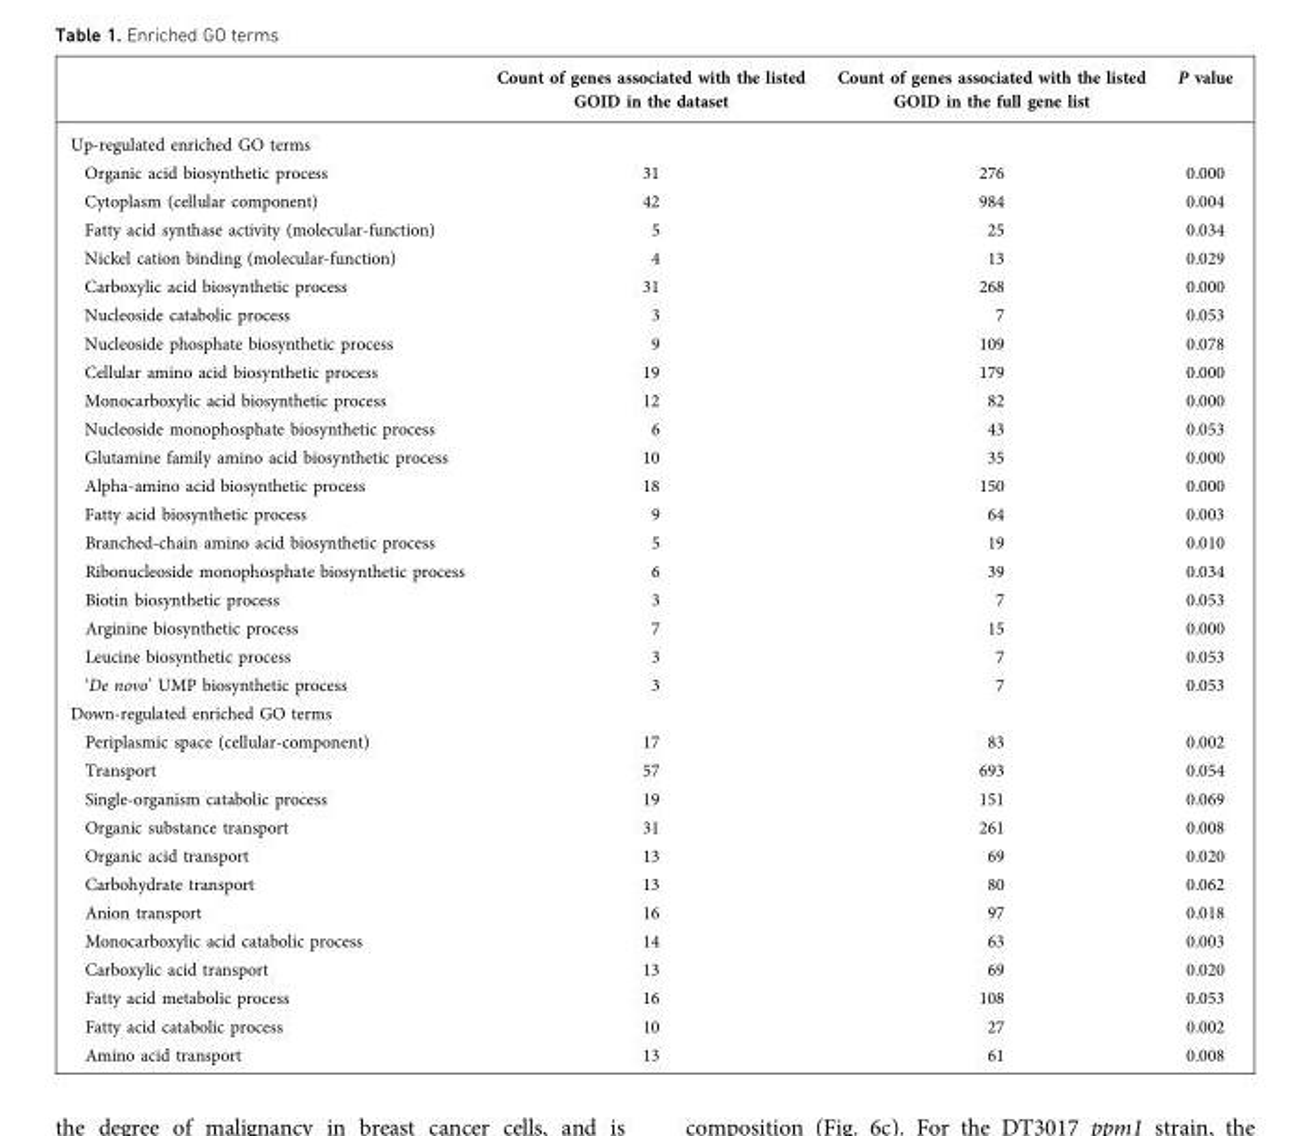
<table><thead><tr><td></td><td>Count of genes associated with the listed GOID in the dataset</td><td>Count of genes associated with the listed GOID in the full gene list</td><td>P value</td></tr></thead><tbody><tr><td colspan="4">Up-regulated enriched GO terms</td></tr><tr><td>Organic acid biosynthetic process</td><td>31</td><td>276</td><td>0.000</td></tr><tr><td>Cytoplasm (cellular component)</td><td>42</td><td>984</td><td>0.004</td></tr><tr><td>Fatty acid synthase activity (molecular-function)</td><td>5</td><td>25</td><td>0.034</td></tr><tr><td>Nickel cation binding (molecular-function)</td><td>4</td><td>13</td><td>0.029</td></tr><tr><td>Carboxylic acid biosynthetic process</td><td>31</td><td>268</td><td>0.000</td></tr><tr><td>Nucleoside catabolic process</td><td>3</td><td>7</td><td>0.053</td></tr><tr><td>Nucleoside phosphate biosynthetic process</td><td>9</td><td>109</td><td>0.078</td></tr><tr><td>Cellular amino acid biosynthetic process</td><td>19</td><td>179</td><td>0.000</td></tr><tr><td>Monocarboxylic acid biosynthetic process</td><td>12</td><td>82</td><td>0.000</td></tr><tr><td>Nucleoside monophosphate biosynthetic process</td><td>6</td><td>43</td><td>0.053</td></tr><tr><td>Glutamine family amino acid biosynthetic process</td><td>10</td><td>35</td><td>0.000</td></tr><tr><td>Alpha-amino acid biosynthetic process</td><td>18</td><td>150</td><td>0.000</td></tr><tr><td>Fatty acid biosynthetic process</td><td>9</td><td>64</td><td>0.003</td></tr><tr><td>Branched-chain amino acid biosynthetic process</td><td>5</td><td>19</td><td>0.010</td></tr><tr><td>Ribonucleoside monophosphate biosynthetic process</td><td>6</td><td>39</td><td>0.034</td></tr><tr><td>Biotin biosynthetic process</td><td>3</td><td>7</td><td>0.053</td></tr><tr><td>Arginine biosynthetic process</td><td>7</td><td>15</td><td>0.000</td></tr><tr><td>Leucine biosynthetic process</td><td>3</td><td>7</td><td>0.053</td></tr><tr><td>‘De novo’ UMP biosynthetic process</td><td>3</td><td>7</td><td>0.053</td></tr><tr><td colspan="4">Down-regulated enriched GO terms</td></tr><tr><td>Periplasmic space (cellular-component)</td><td>17</td><td>83</td><td>0.002</td></tr><tr><td>Transport</td><td>57</td><td>693</td><td>0.054</td></tr><tr><td>Single-organism catabolic process</td><td>19</td><td>151</td><td>0.069</td></tr><tr><td>Organic substance transport</td><td>31</td><td>261</td><td>0.008</td></tr><tr><td>Organic acid transport</td><td>13</td><td>69</td><td>0.020</td></tr><tr><td>Carbohydrate transport</td><td>13</td><td>80</td><td>0.062</td></tr><tr><td>Anion transport</td><td>16</td><td>97</td><td>0.018</td></tr><tr><td>Monocarboxylic acid catabolic process</td><td>14</td><td>63</td><td>0.003</td></tr><tr><td>Carboxylic acid transport</td><td>13</td><td>69</td><td>0.020</td></tr><tr><td>Fatty acid metabolic process</td><td>16</td><td>108</td><td>0.053</td></tr><tr><td>Fatty acid catabolic process</td><td>10</td><td>27</td><td>0.002</td></tr><tr><td>Amino acid transport</td><td>13</td><td>61</td><td>0.008</td></tr></tbody></table>